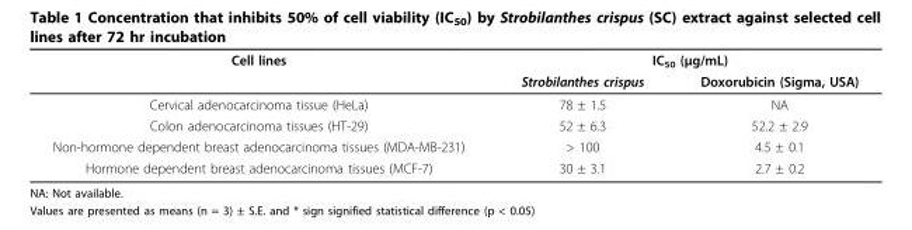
<table><thead><tr><td rowspan="2">Cell lines</td><td colspan="2">IC<sub>50</sub> (μg/mL)</td></tr><tr><td>Strobilanthes crispus</td><td>Doxorubicin (Sigma, USA)</td></tr></thead><tbody><tr><td>Cervical adenocarcinoma tissue (HeLa)</td><td>78 ± 1.5</td><td>NA</td></tr><tr><td>Colon adenocarcinoma tissues (HT-29)</td><td>52 ± 6.3</td><td>52.2 ± 2.9</td></tr><tr><td>Non-hormone dependent breast adenocarcinoma tissues (MDA-MB-231)</td><td>&gt; 100</td><td>4.5 ± 0.1</td></tr><tr><td>Hormone dependent breast adenocarcinoma tissues (MCF-7)</td><td>30 ± 3.1</td><td>2.7 ± 0.2</td></tr></tbody></table>